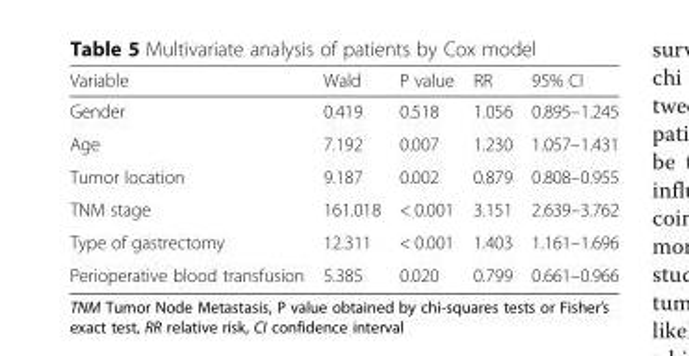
<table><thead><tr><td>Variable</td><td>Wald</td><td>P value</td><td>RR</td><td>95% CI</td></tr></thead><tbody><tr><td>Gender</td><td>0.419</td><td>0.518</td><td>1.056</td><td>0.895–1.245</td></tr><tr><td>Age</td><td>7.192</td><td>0.007</td><td>1.230</td><td>1.057–1.431</td></tr><tr><td>Tumor location</td><td>9.187</td><td>0.002</td><td>0.879</td><td>0.808–0.955</td></tr><tr><td>TNM stage</td><td>161.018</td><td>&lt; 0.001</td><td>3.151</td><td>2.639–3.762</td></tr><tr><td>Type of gastrectomy</td><td>12.311</td><td>&lt; 0.001</td><td>1.403</td><td>1.161–1.696</td></tr><tr><td>Perioperative blood transfusion</td><td>5.385</td><td>0.020</td><td>0.799</td><td>0.661–0.966</td></tr></tbody></table>